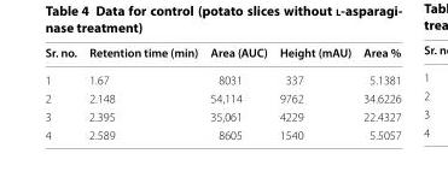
<table><thead><tr><td>Sr. no.</td><td>Retention time (min)</td><td>Area (AUC)</td><td>Height (mAU)</td><td>Area %</td></tr></thead><tbody><tr><td>1</td><td>1.67</td><td>8031</td><td>337</td><td>5.1381</td></tr><tr><td>2</td><td>2.148</td><td>54,114</td><td>9762</td><td>34.6226</td></tr><tr><td>3</td><td>2.395</td><td>35,061</td><td>4229</td><td>22.4327</td></tr><tr><td>4</td><td>2.589</td><td>8605</td><td>1540</td><td>5.5057</td></tr></tbody></table>